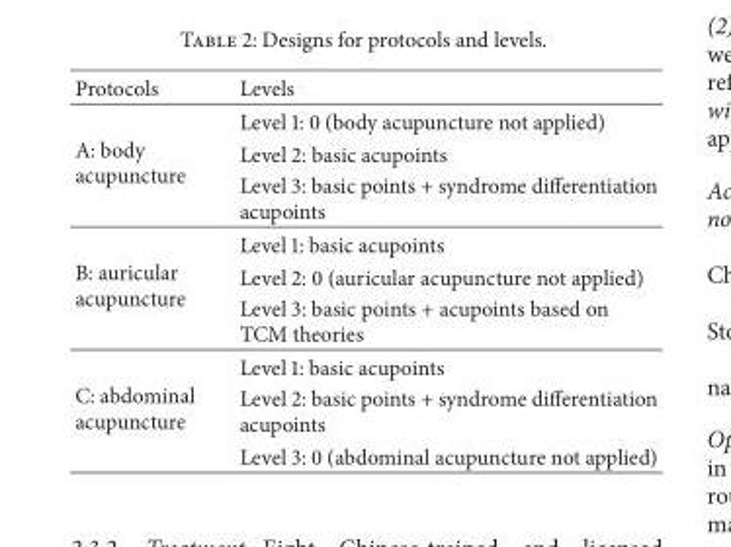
<table><thead><tr><td>Protocols</td><td>Levels</td></tr></thead><tbody><tr><td rowspan="3">A: body acupuncture</td><td>Level 1: 0 (body acupuncture not applied)</td></tr><tr><td>Level 2: basic acupoints</td></tr><tr><td>Level 3: basic points + syndrome differentiation acupoints</td></tr><tr><td rowspan="3">B: auricular acupuncture</td><td>Level 1: basic acupoints</td></tr><tr><td>Level 2: 0 (auricular acupuncture not applied)</td></tr><tr><td>Level 3: basic points + acupoints based on TCM theories</td></tr><tr><td rowspan="3">C: abdominal acupuncture</td><td>Level 1: basic acupoints</td></tr><tr><td>Level 2: basic points + syndrome differentiation acupoints</td></tr><tr><td>Level 3: 0 (abdominal acupuncture not applied)</td></tr></tbody></table>